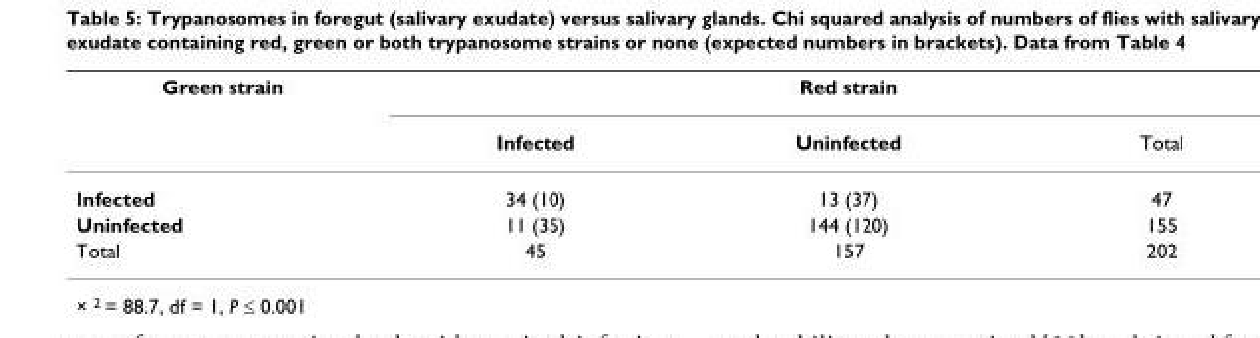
<table><thead><tr><td rowspan="2">Green strain</td><td colspan="3">Red strain</td></tr><tr><td>Infected</td><td>Uninfected</td><td>Total</td></tr></thead><tbody><tr><td>Infected</td><td>34 (10)</td><td>13 (37)</td><td>47</td></tr><tr><td>Uninfected</td><td>11 (35)</td><td>144 (120)</td><td>155</td></tr><tr><td>Total</td><td>45</td><td>157</td><td>202</td></tr></tbody></table>